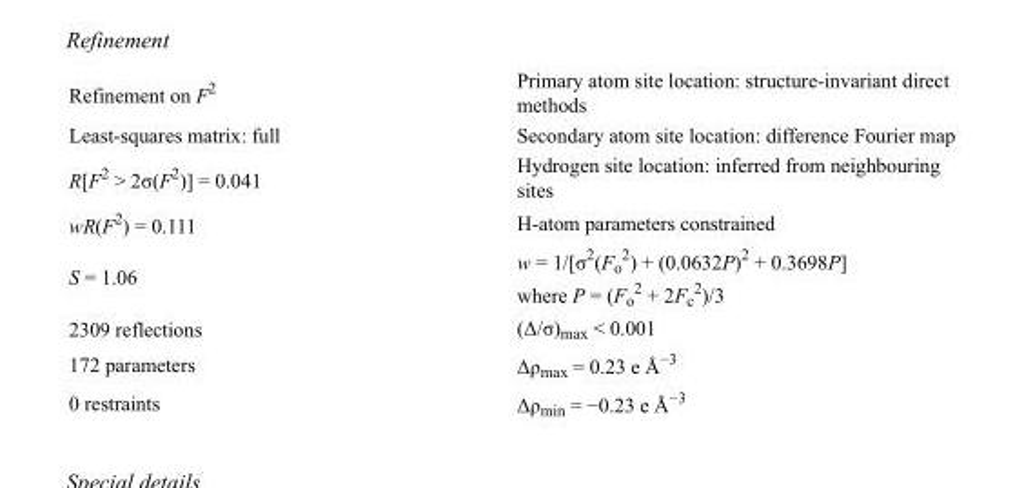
<table><tbody><tr><td>Refinement on F<sup>2</sup></td><td>Primary atom site location: structure-invariant direct methods</td></tr><tr><td>Least-squares matrix: full</td><td>Secondary atom site location: difference Fourier map</td></tr><tr><td>R[F<sup>2</sup> &gt; 2σ(F<sup>2</sup>)] = 0.041</td><td>Hydrogen site location: inferred from neighbouring sites</td></tr><tr><td>wR(F<sup>2</sup>) = 0.111</td><td>H-atom parameters constrained</td></tr><tr><td>S = 1.06</td><td>w = 1/[σ<sup>2</sup>(F<sub>o</sub> <sup>2</sup>) + (0.0632P)<sup>2</sup> + 0.3698P] where P = (F<sub>o</sub> <sup>2</sup> + 2F<sub>c</sub> <sup>2</sup>)/3</td></tr><tr><td>2309 reflections</td><td>(Δ/σ)<sub>max</sub> &lt; 0.001</td></tr><tr><td>172 parameters</td><td>Δρ<sub>max</sub> = 0.23 e Å<sup>−3</sup></td></tr><tr><td>0 restraints</td><td>Δρ<sub>min</sub> = −0.23 e Å<sup>−3</sup></td></tr></tbody></table>